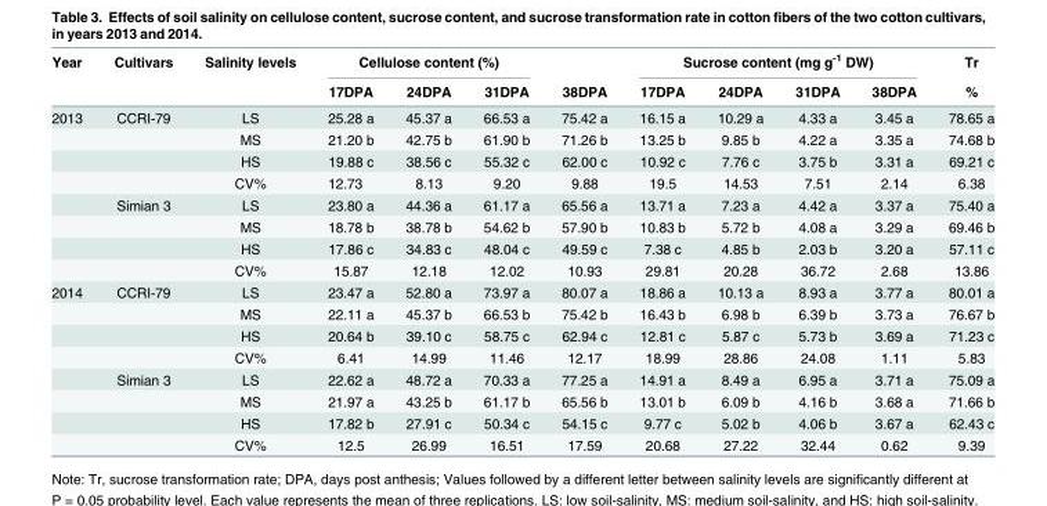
<table><thead><tr><td rowspan="2">Year</td><td rowspan="2">Cultivars</td><td rowspan="2">Salinity levels</td><td colspan="3">Cellulose content (%)</td><td rowspan="2">38DPA</td><td colspan="4">Sucrose content (mg g<sup>-1</sup> DW)</td><td rowspan="2">Tr %</td></tr><tr><td>17DPA</td><td>24DPA</td><td>31DPA</td><td>17DPA</td><td>24DPA</td><td>31DPA</td><td>38DPA</td></tr></thead><tbody><tr><td rowspan="8">2013</td><td>CCRI-79</td><td>LS</td><td>25.28 a</td><td>45.37 a</td><td>66.53 a</td><td>75.42 a</td><td>16.15 a</td><td>10.29 a</td><td>4.33 a</td><td>3.45 a</td><td>78.65 a</td></tr><tr><td></td><td>MS</td><td>21.20 b</td><td>42.75 b</td><td>61.90 b</td><td>71.26 b</td><td>13.25 b</td><td>9.85 b</td><td>4.22 a</td><td>3.35 a</td><td>74.68 b</td></tr><tr><td></td><td>HS</td><td>19.88 c</td><td>38.56 c</td><td>55.32 c</td><td>62.00 c</td><td>10.92 c</td><td>7.76 c</td><td>3.75 b</td><td>3.31 a</td><td>69.21 c</td></tr><tr><td></td><td>CV%</td><td>12.73</td><td>8.13</td><td>9.20</td><td>9.88</td><td>19.5</td><td>14.53</td><td>7.51</td><td>2.14</td><td>6.38</td></tr><tr><td>Simian 3</td><td>LS</td><td>23.80 a</td><td>44.36 a</td><td>61.17 a</td><td>65.56 a</td><td>13.71 a</td><td>7.23 a</td><td>4.42 a</td><td>3.37 a</td><td>75.40 a</td></tr><tr><td></td><td>MS</td><td>18.78 b</td><td>38.78 b</td><td>54.62 b</td><td>57.90 b</td><td>10.83 b</td><td>5.72 b</td><td>4.08 a</td><td>3.29 a</td><td>69.46 b</td></tr><tr><td></td><td>HS</td><td>17.86 c</td><td>34.83 c</td><td>48.04 c</td><td>49.59 c</td><td>7.38 c</td><td>4.85 b</td><td>2.03 b</td><td>3.20 a</td><td>57.11 c</td></tr><tr><td></td><td>CV%</td><td>15.87</td><td>12.18</td><td>12.02</td><td>10.93</td><td>29.81</td><td>20.28</td><td>36.72</td><td>2.68</td><td>13.86</td></tr><tr><td rowspan="8">2014</td><td>CCRI-79</td><td>LS</td><td>23.47 a</td><td>52.80 a</td><td>73.97 a</td><td>80.07 a</td><td>18.86 a</td><td>10.13 a</td><td>8.93 a</td><td>3.77 a</td><td>80.01 a</td></tr><tr><td></td><td>MS</td><td>22.11 a</td><td>45.37 b</td><td>66.53 b</td><td>75.42 b</td><td>16.43 b</td><td>6.98 b</td><td>6.39 b</td><td>3.73 a</td><td>76.67 b</td></tr><tr><td></td><td>HS</td><td>20.64 b</td><td>39.10 c</td><td>58.75 c</td><td>62.94 c</td><td>12.81 c</td><td>5.87 c</td><td>5.73 b</td><td>3.69 a</td><td>71.23 c</td></tr><tr><td></td><td>CV%</td><td>6.41</td><td>14.99</td><td>11.46</td><td>12.17</td><td>18.99</td><td>28.86</td><td>24.08</td><td>1.11</td><td>5.83</td></tr><tr><td>Simian 3</td><td>LS</td><td>22.62 a</td><td>48.72 a</td><td>70.33 a</td><td>77.25 a</td><td>14.91 a</td><td>8.49 a</td><td>6.95 a</td><td>3.71 a</td><td>75.09 a</td></tr><tr><td></td><td>MS</td><td>21.97 a</td><td>43.25 b</td><td>61.17 b</td><td>65.56 b</td><td>13.01 b</td><td>6.09 b</td><td>4.16 b</td><td>3.68 a</td><td>71.66 b</td></tr><tr><td></td><td>HS</td><td>17.82 b</td><td>27.91 c</td><td>50.34 c</td><td>54.15 c</td><td>9.77 c</td><td>5.02 b</td><td>4.06 b</td><td>3.67 a</td><td>62.43 c</td></tr><tr><td></td><td>CV%</td><td>12.5</td><td>26.99</td><td>16.51</td><td>17.59</td><td>20.68</td><td>27.22</td><td>32.44</td><td>0.62</td><td>9.39</td></tr></tbody></table>